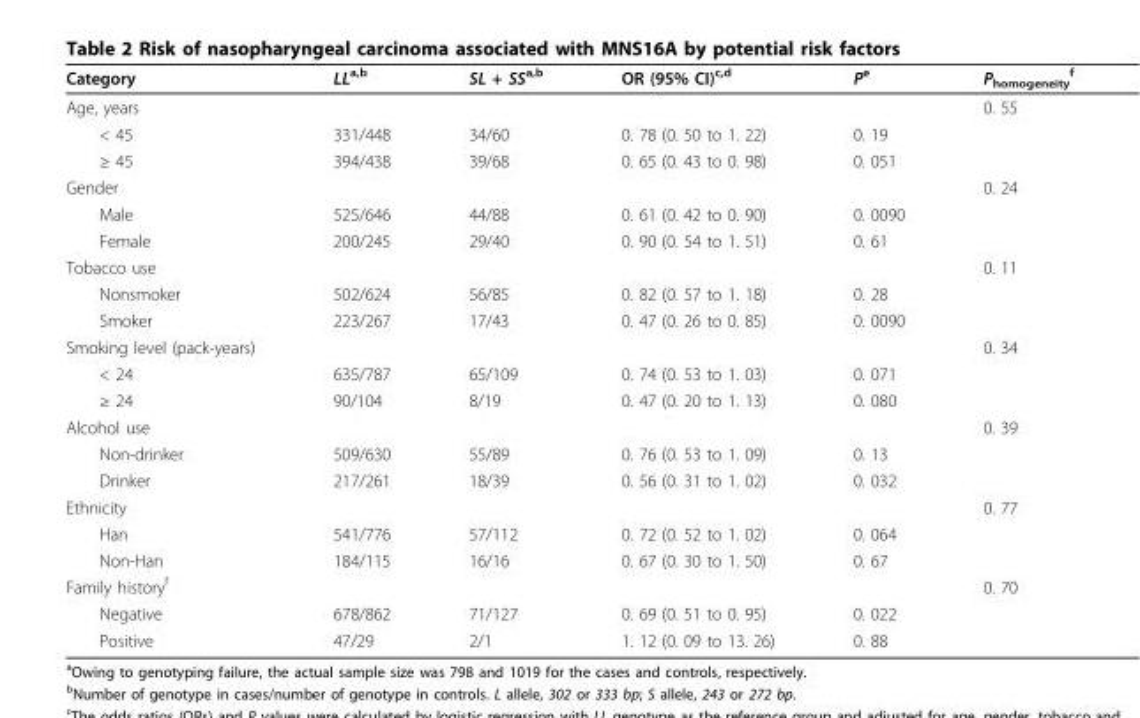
<table><thead><tr><td>Category</td><td>LL<sup>a,b</sup></td><td>SL + SS<sup>a,b</sup></td><td>OR (95% CI)<sup>c,d</sup></td><td>P<sup>e</sup></td><td>P<sub>homogeneity</sub> <sup>f</sup></td></tr></thead><tbody><tr><td>Age, years</td><td></td><td></td><td></td><td></td><td>0. 55</td></tr><tr><td>&lt; 45</td><td>331/448</td><td>34/60</td><td>0. 78 (0. 50 to 1. 22)</td><td>0. 19</td><td></td></tr><tr><td>≥ 45</td><td>394/438</td><td>39/68</td><td>0. 65 (0. 43 to 0. 98)</td><td>0. 051</td><td></td></tr><tr><td>Gender</td><td></td><td></td><td></td><td></td><td>0. 24</td></tr><tr><td>Male</td><td>525/646</td><td>44/88</td><td>0. 61 (0. 42 to 0. 90)</td><td>0. 0090</td><td></td></tr><tr><td>Female</td><td>200/245</td><td>29/40</td><td>0. 90 (0. 54 to 1. 51)</td><td>0. 61</td><td></td></tr><tr><td>Tobacco use</td><td></td><td></td><td></td><td></td><td>0. 11</td></tr><tr><td>Nonsmoker</td><td>502/624</td><td>56/85</td><td>0. 82 (0. 57 to 1. 18)</td><td>0. 28</td><td></td></tr><tr><td>Smoker</td><td>223/267</td><td>17/43</td><td>0. 47 (0. 26 to 0. 85)</td><td>0. 0090</td><td></td></tr><tr><td>Smoking level (pack-years)</td><td></td><td></td><td></td><td></td><td>0. 34</td></tr><tr><td>&lt; 24</td><td>635/787</td><td>65/109</td><td>0. 74 (0. 53 to 1. 03)</td><td>0. 071</td><td></td></tr><tr><td>≥ 24</td><td>90/104</td><td>8/19</td><td>0. 47 (0. 20 to 1. 13)</td><td>0. 080</td><td></td></tr><tr><td>Alcohol use</td><td></td><td></td><td></td><td></td><td>0. 39</td></tr><tr><td>Non-drinker</td><td>509/630</td><td>55/89</td><td>0. 76 (0. 53 to 1. 09)</td><td>0. 13</td><td></td></tr><tr><td>Drinker</td><td>217/261</td><td>18/39</td><td>0. 56 (0. 31 to 1. 02)</td><td>0. 032</td><td></td></tr><tr><td>Ethnicity</td><td></td><td></td><td></td><td></td><td>0. 77</td></tr><tr><td>Han</td><td>541/776</td><td>57/112</td><td>0. 72 (0. 52 to 1. 02)</td><td>0. 064</td><td></td></tr><tr><td>Non-Han</td><td>184/115</td><td>16/16</td><td>0. 67 (0. 30 to 1. 50)</td><td>0. 67</td><td></td></tr><tr><td>Family history<sup>f</sup></td><td></td><td></td><td></td><td></td><td>0. 70</td></tr><tr><td>Negative</td><td>678/862</td><td>71/127</td><td>0. 69 (0. 51 to 0. 95)</td><td>0. 022</td><td></td></tr><tr><td>Positive</td><td>47/29</td><td>2/1</td><td>1. 12 (0. 09 to 13. 26)</td><td>0. 88</td><td></td></tr></tbody></table>